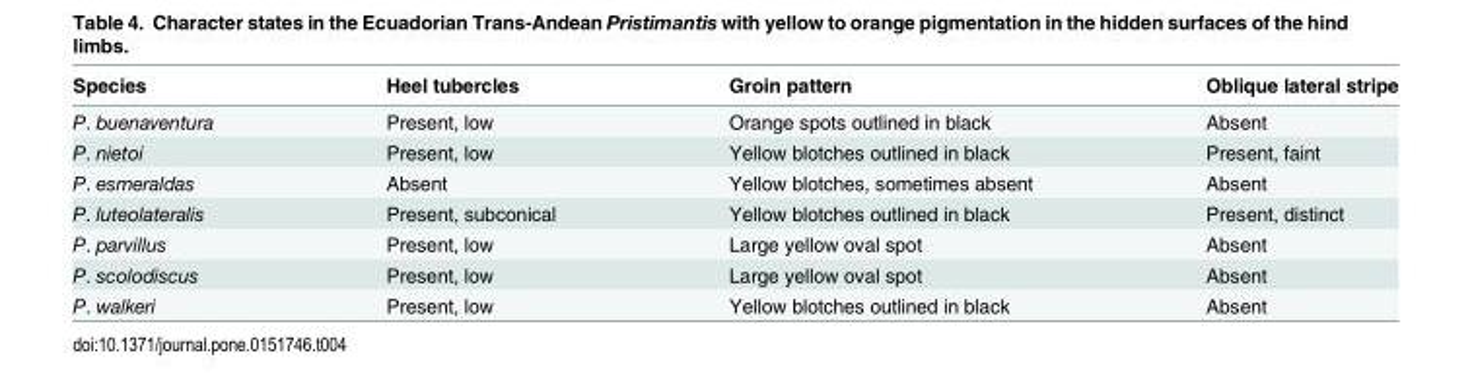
<table><thead><tr><td>Species</td><td>Heel tubercles</td><td>Groin pattern</td><td>Oblique lateral stripe</td></tr></thead><tbody><tr><td>P. buenaventura</td><td>Present, low</td><td>Orange spots outlined in black</td><td>Absent</td></tr><tr><td>P. nietoi</td><td>Present, low</td><td>Yellow blotches outlined in black</td><td>Present, faint</td></tr><tr><td>P. esmeraldas</td><td>Absent</td><td>Yellow blotches, sometimes absent</td><td>Absent</td></tr><tr><td>P. luteolateralis</td><td>Present, subconical</td><td>Yellow blotches outlined in black</td><td>Present, distinct</td></tr><tr><td>P. parvillus</td><td>Present, low</td><td>Large yellow oval spot</td><td>Absent</td></tr><tr><td>P. scolodiscus</td><td>Present, low</td><td>Large yellow oval spot</td><td>Absent</td></tr><tr><td>P. walkeri</td><td>Present, low</td><td>Yellow blotches outlined in black</td><td>Absent</td></tr></tbody></table>